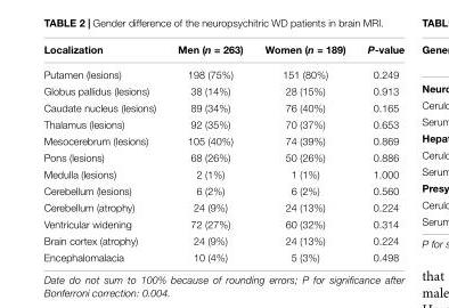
<table><thead><tr><td>Localization</td><td>Men (n = 263)</td><td>Women (n = 189)</td><td>P-value</td></tr></thead><tbody><tr><td>Putamen (lesions)</td><td>198 (75%)</td><td>151 (80%)</td><td>0.249</td></tr><tr><td>Globus pallidus (lesions)</td><td>38 (14%)</td><td>28 (15%)</td><td>0.913</td></tr><tr><td>Caudate nucleus (lesions)</td><td>89 (34%)</td><td>76 (40%)</td><td>0.165</td></tr><tr><td>Thalamus (lesions)</td><td>92 (35%)</td><td>70 (37%)</td><td>0.653</td></tr><tr><td>Mesocerebrum (lesions)</td><td>105 (40%)</td><td>74 (39%)</td><td>0.869</td></tr><tr><td>Pons (lesions)</td><td>68 (26%)</td><td>50 (26%)</td><td>0.886</td></tr><tr><td>Medulla (lesions)</td><td>2 (1%)</td><td>1 (1%)</td><td>1.000</td></tr><tr><td>Cerebellum (lesions)</td><td>6 (2%)</td><td>6 (2%)</td><td>0.560</td></tr><tr><td>Cerebellum (atrophy)</td><td>24 (9%)</td><td>24 (13%)</td><td>0.224</td></tr><tr><td>Ventricular widening</td><td>72 (27%)</td><td>60 (32%)</td><td>0.314</td></tr><tr><td>Brain cortex (atrophy)</td><td>24 (9%)</td><td>24 (13%)</td><td>0.224</td></tr><tr><td>Encephalomalacia</td><td>10 (4%)</td><td>5 (3%)</td><td>0.498</td></tr></tbody></table>